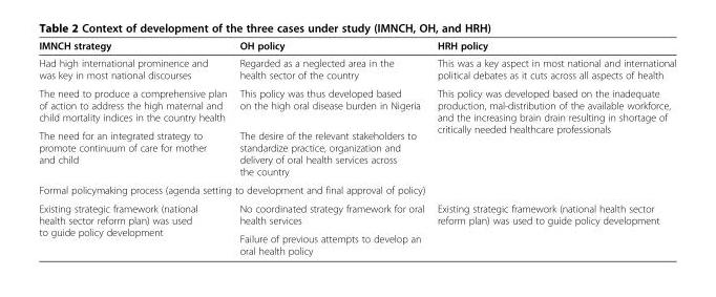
<table><thead><tr><td>IMNCH strategy</td><td>OH policy</td><td>HRH policy</td></tr></thead><tbody><tr><td>Had high international prominence and was key in most national discourses</td><td>Regarded as a neglected area in the health sector of the country</td><td>This was a key aspect in most national and international political debates as it cuts across all aspects of health</td></tr><tr><td>The need to produce a comprehensive plan of action to address the high maternal and child mortality indices in the country health</td><td>This policy was thus developed based on the high oral disease burden in Nigeria</td><td rowspan="2">This policy was developed based on the inadequate production, mal-distribution of the available workforce, and the increasing brain drain resulting in shortage of critically needed healthcare professionals</td></tr><tr><td>The need for an integrated strategy to promote continuum of care for mother and child</td><td>The desire of the relevant stakeholders to standardize practice, organization and delivery of oral health services across the country</td></tr><tr><td colspan="3">Formal policymaking process (agenda setting to development and final approval of policy)</td></tr><tr><td rowspan="2">Existing strategic framework (national health sector reform plan) was used to guide policy development</td><td>No coordinated strategy framework for oral health services</td><td rowspan="2">Existing strategic framework (national health sector reform plan) was used to guide policy development</td></tr><tr><td>Failure of previous attempts to develop an oral health policy</td></tr></tbody></table>